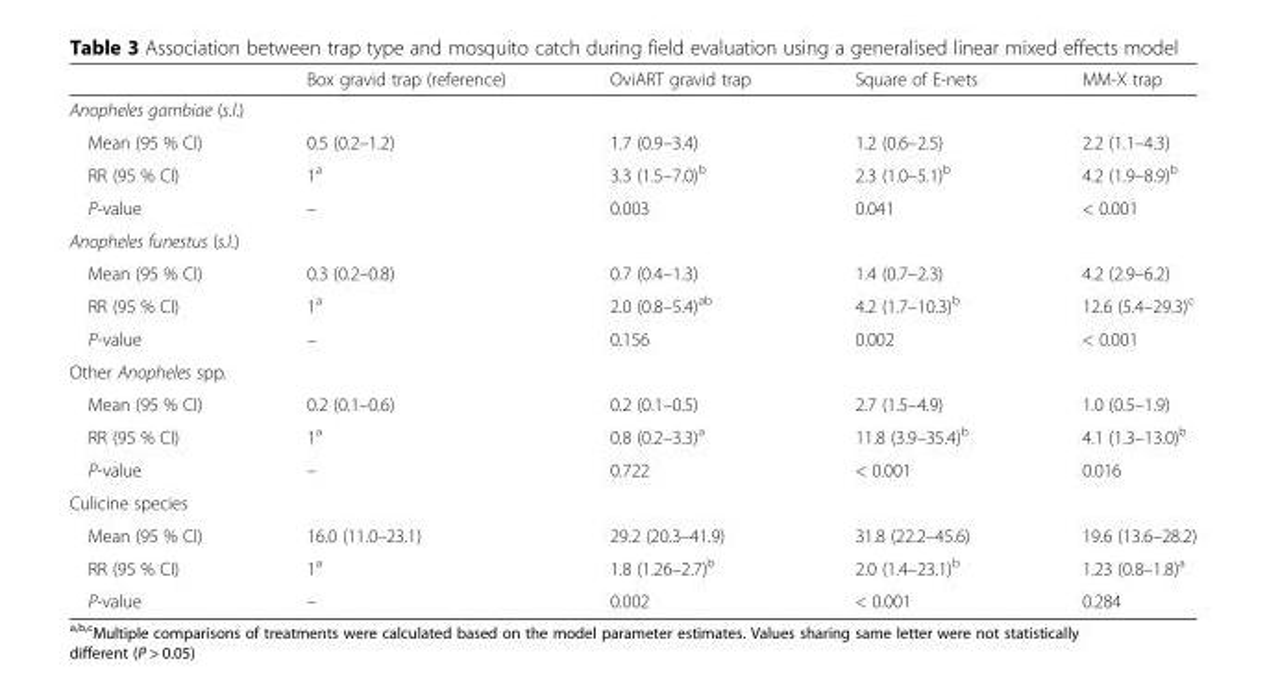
<table><thead><tr><td></td><td>Box gravid trap (reference)</td><td>OviART gravid trap</td><td>Square of E-nets</td><td>MM-X trap</td></tr></thead><tbody><tr><td colspan="5">Anopheles gambiae (s.l.)</td></tr><tr><td>Mean (95 % CI)</td><td>0.5 (0.2–1.2)</td><td>1.7 (0.9–3.4)</td><td>1.2 (0.6–2.5)</td><td>2.2 (1.1–4.3)</td></tr><tr><td>RR (95 % CI)</td><td>1<sup>a</sup></td><td>3.3 (1.5–7.0)<sup>b</sup></td><td>2.3 (1.0–5.1)<sup>b</sup></td><td>4.2 (1.9–8.9)<sup>b</sup></td></tr><tr><td>P-value</td><td>–</td><td>0.003</td><td>0.041</td><td>&lt; 0.001</td></tr><tr><td colspan="5">Anopheles funestus (s.l.)</td></tr><tr><td>Mean (95 % CI)</td><td>0.3 (0.2–0.8)</td><td>0.7 (0.4–1.3)</td><td>1.4 (0.7–2.3)</td><td>4.2 (2.9–6.2)</td></tr><tr><td>RR (95 % CI)</td><td>1<sup>a</sup></td><td>2.0 (0.8–5.4)<sup>ab</sup></td><td>4.2 (1.7–10.3)<sup>b</sup></td><td>12.6 (5.4–29.3)<sup>c</sup></td></tr><tr><td>P-value</td><td>–</td><td>0.156</td><td>0.002</td><td>&lt; 0.001</td></tr><tr><td colspan="5">Other Anopheles spp.</td></tr><tr><td>Mean (95 % CI)</td><td>0.2 (0.1–0.6)</td><td>0.2 (0.1–0.5)</td><td>2.7 (1.5–4.9)</td><td>1.0 (0.5–1.9)</td></tr><tr><td>RR (95 % CI)</td><td>1<sup>a</sup></td><td>0.8 (0.2–3.3)<sup>a</sup></td><td>11.8 (3.9–35.4)<sup>b</sup></td><td>4.1 (1.3–13.0)<sup>b</sup></td></tr><tr><td>P-value</td><td>–</td><td>0.722</td><td>&lt; 0.001</td><td>0.016</td></tr><tr><td colspan="5">Culicine species</td></tr><tr><td>Mean (95 % CI)</td><td>16.0 (11.0–23.1)</td><td>29.2 (20.3–41.9)</td><td>31.8 (22.2–45.6)</td><td>19.6 (13.6–28.2)</td></tr><tr><td>RR (95 % CI)</td><td>1<sup>a</sup></td><td>1.8 (1.26–2.7)<sup>b</sup></td><td>2.0 (1.4–23.1)<sup>b</sup></td><td>1.23 (0.8–1.8)<sup>a</sup></td></tr><tr><td>P-value</td><td>–</td><td>0.002</td><td>&lt; 0.001</td><td>0.284</td></tr></tbody></table>